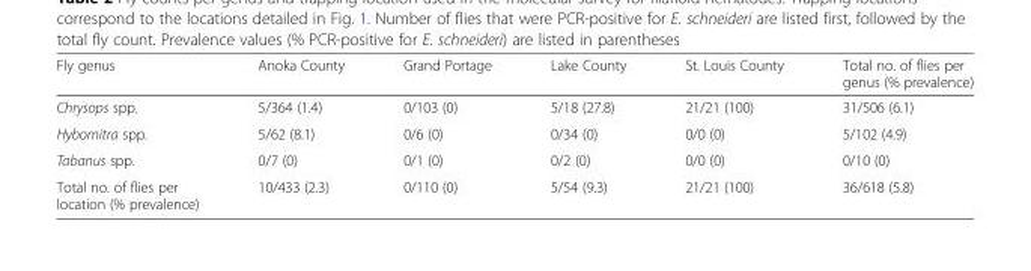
<table><thead><tr><td>Fly genus</td><td>Anoka County</td><td>Grand Portage</td><td>Lake County</td><td>St. Louis County</td><td>Total no. of flies per genus (% prevalence)</td></tr></thead><tbody><tr><td>Chrysops spp.</td><td>5/364 (1.4)</td><td>0/103 (0)</td><td>5/18 (27.8)</td><td>21/21 (100)</td><td>31/506 (6.1)</td></tr><tr><td>Hybomitra spp.</td><td>5/62 (8.1)</td><td>0/6 (0)</td><td>0/34 (0)</td><td>0/0 (0)</td><td>5/102 (4.9)</td></tr><tr><td>Tabanus spp.</td><td>0/7 (0)</td><td>0/1 (0)</td><td>0/2 (0)</td><td>0/0 (0)</td><td>0/10 (0)</td></tr><tr><td>Total no. of flies per location (% prevalence)</td><td>10/433 (2.3)</td><td>0/110 (0)</td><td>5/54 (9.3)</td><td>21/21 (100)</td><td>36/618 (5.8)</td></tr></tbody></table>